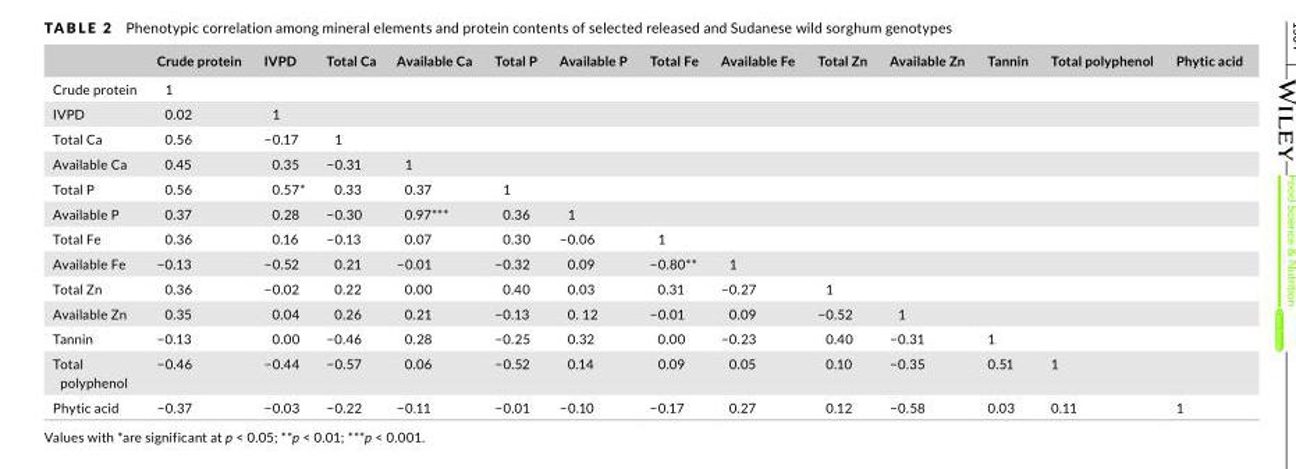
<table><thead><tr><td></td><td>Crude protein</td><td>IVPD</td><td>Total Ca</td><td>Available Ca</td><td>Total P</td><td>Available P</td><td>Total Fe</td><td>Available Fe</td><td>Total Zn</td><td>Available Zn</td><td>Tannin</td><td>Total polyphenol</td><td>Phytic acid</td></tr></thead><tbody><tr><td>Crude protein</td><td>1</td><td></td><td></td><td></td><td></td><td></td><td></td><td></td><td></td><td></td><td></td><td></td><td></td></tr><tr><td>IVPD</td><td>0.02</td><td>1</td><td></td><td></td><td></td><td></td><td></td><td></td><td></td><td></td><td></td><td></td><td></td></tr><tr><td>Total Ca</td><td>0.56</td><td>−0.17</td><td>1</td><td></td><td></td><td></td><td></td><td></td><td></td><td></td><td></td><td></td><td></td></tr><tr><td>Available Ca</td><td>0.45</td><td>0.35</td><td>−0.31</td><td>1</td><td></td><td></td><td></td><td></td><td></td><td></td><td></td><td></td><td></td></tr><tr><td>Total P</td><td>0.56</td><td>0.57*</td><td>0.33</td><td>0.37</td><td>1</td><td></td><td></td><td></td><td></td><td></td><td></td><td></td><td></td></tr><tr><td>Available P</td><td>0.37</td><td>0.28</td><td>−0.30</td><td>0.97***</td><td>0.36</td><td>1</td><td></td><td></td><td></td><td></td><td></td><td></td><td></td></tr><tr><td>Total Fe</td><td>0.36</td><td>0.16</td><td>−0.13</td><td>0.07</td><td>0.30</td><td>−0.06</td><td>1</td><td></td><td></td><td></td><td></td><td></td><td></td></tr><tr><td>Available Fe</td><td>−0.13</td><td>−0.52</td><td>0.21</td><td>−0.01</td><td>−0.32</td><td>0.09</td><td>−0.80**</td><td>1</td><td></td><td></td><td></td><td></td><td></td></tr><tr><td>Total Zn</td><td>0.36</td><td>−0.02</td><td>0.22</td><td>0.00</td><td>0.40</td><td>0.03</td><td>0.31</td><td>−0.27</td><td>1</td><td></td><td></td><td></td><td></td></tr><tr><td>Available Zn</td><td>0.35</td><td>0.04</td><td>0.26</td><td>0.21</td><td>−0.13</td><td>0. 12</td><td>−0.01</td><td>0.09</td><td>−0.52</td><td>1</td><td></td><td></td><td></td></tr><tr><td>Tannin</td><td>−0.13</td><td>0.00</td><td>−0.46</td><td>0.28</td><td>−0.25</td><td>0.32</td><td>0.00</td><td>−0.23</td><td>0.40</td><td>−0.31</td><td>1</td><td></td><td></td></tr><tr><td>Total polyphenol</td><td>−0.46</td><td>−0.44</td><td>−0.57</td><td>0.06</td><td>−0.52</td><td>0.14</td><td>0.09</td><td>0.05</td><td>0.10</td><td>−0.35</td><td>0.51</td><td>1</td><td></td></tr><tr><td>Phytic acid</td><td>−0.37</td><td>−0.03</td><td>−0.22</td><td>−0.11</td><td>−0.01</td><td>−0.10</td><td>−0.17</td><td>0.27</td><td>0.12</td><td>−0.58</td><td>0.03</td><td>0.11</td><td>1</td></tr></tbody></table>